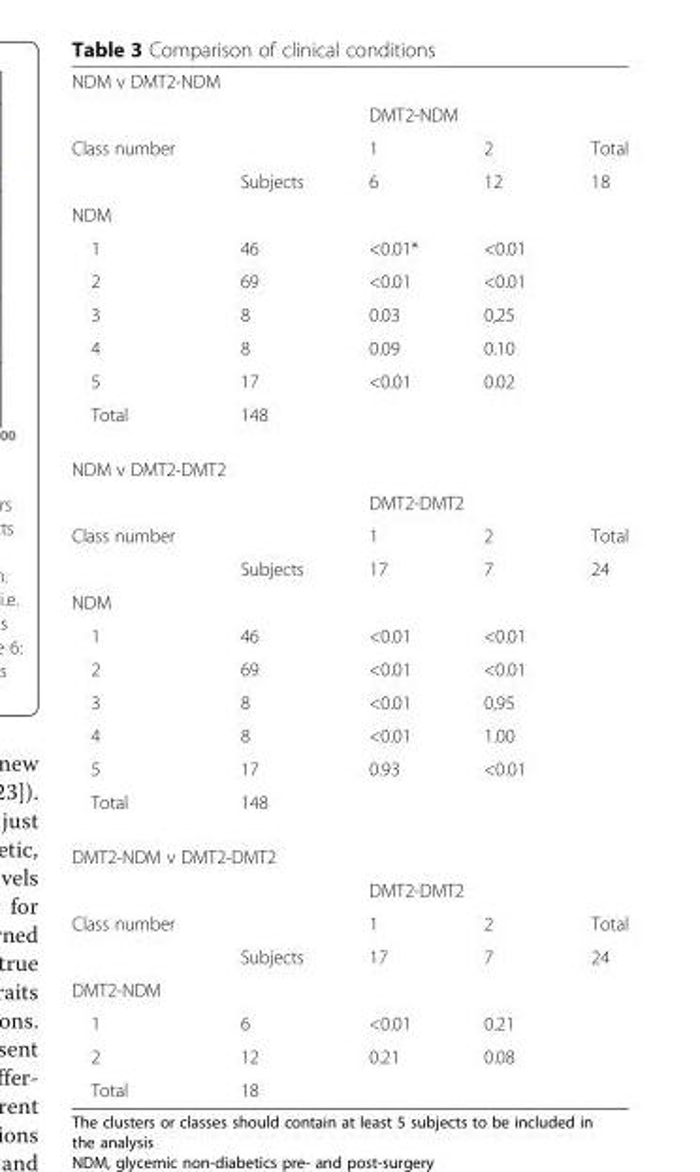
<table><tbody><tr><td colspan="5">NDM v DMT2-NDM</td></tr><tr><td></td><td></td><td colspan="2">DMT2-NDM</td><td></td></tr><tr><td rowspan="2">Class number</td><td></td><td>1</td><td>2</td><td>Total</td></tr><tr><td>Subjects</td><td>6</td><td>12</td><td>18</td></tr><tr><td colspan="5">NDM</td></tr><tr><td>1</td><td>46</td><td>&lt;0.01*</td><td>&lt;0.01</td><td></td></tr><tr><td>2</td><td>69</td><td>&lt;0.01</td><td>&lt;0.01</td><td></td></tr><tr><td>3</td><td>8</td><td>0.03</td><td>0,25</td><td></td></tr><tr><td>4</td><td>8</td><td>0.09</td><td>0.10</td><td></td></tr><tr><td>5</td><td>17</td><td>&lt;0.01</td><td>0.02</td><td></td></tr><tr><td>Total</td><td>148</td><td></td><td></td><td></td></tr><tr><td colspan="5">NDM v DMT2-DMT2</td></tr><tr><td></td><td></td><td colspan="2">DMT2-DMT2</td><td></td></tr><tr><td rowspan="2">Class number</td><td></td><td>1</td><td>2</td><td>Total</td></tr><tr><td>Subjects</td><td>17</td><td>7</td><td>24</td></tr><tr><td colspan="5">NDM</td></tr><tr><td>1</td><td>46</td><td>&lt;0.01</td><td>&lt;0.01</td><td></td></tr><tr><td>2</td><td>69</td><td>&lt;0.01</td><td>&lt;0.01</td><td></td></tr><tr><td>3</td><td>8</td><td>&lt;0.01</td><td>0,95</td><td></td></tr><tr><td>4</td><td>8</td><td>&lt;0.01</td><td>1.00</td><td></td></tr><tr><td>5</td><td>17</td><td>0.93</td><td>&lt;0.01</td><td></td></tr><tr><td>Total</td><td>148</td><td></td><td></td><td></td></tr><tr><td colspan="5">DMT2-NDM v DMT2-DMT2</td></tr><tr><td></td><td></td><td colspan="2">DMT2-DMT2</td><td></td></tr><tr><td rowspan="2">Class number</td><td></td><td>1</td><td>2</td><td>Total</td></tr><tr><td>Subjects</td><td>17</td><td>7</td><td>24</td></tr><tr><td colspan="5">DMT2-NDM</td></tr><tr><td>1</td><td>6</td><td>&lt;0.01</td><td>0.21</td><td></td></tr><tr><td>2</td><td>12</td><td>0.21</td><td>0.08</td><td></td></tr><tr><td>Total</td><td>18</td><td></td><td></td><td></td></tr></tbody></table>